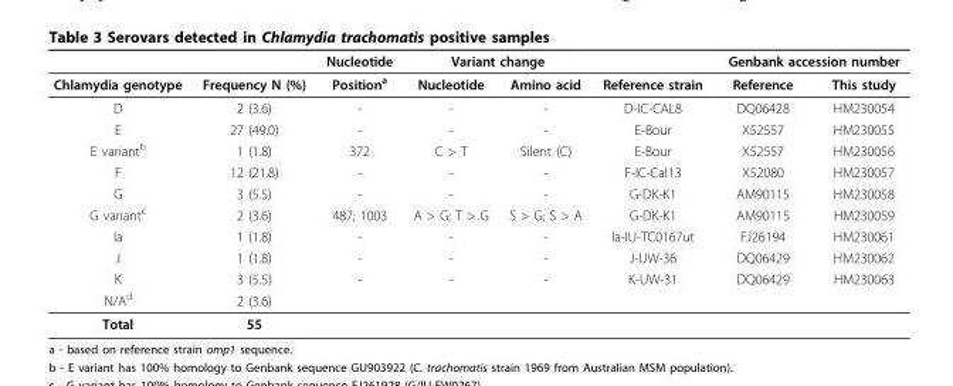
<table><thead><tr><td rowspan="2">Chlamydia genotype</td><td rowspan="2">Frequency N (%)</td><td rowspan="2">Nucleotide Positiona</td><td colspan="2">Variant change</td><td rowspan="2">Reference strain</td><td colspan="2">Genbank accession number</td></tr><tr><td>Nucleotide</td><td>Amino acid</td><td>Reference</td><td>This study</td></tr></thead><tbody><tr><td>D</td><td>2 (3.6)</td><td>-</td><td>-</td><td>-</td><td>D-IC-CAL8</td><td>DQ06428</td><td>HM230054</td></tr><tr><td>E</td><td>27 (49.0)</td><td>-</td><td>-</td><td>-</td><td>E-Bour</td><td>X52557</td><td>HM230055</td></tr><tr><td>E variant<sup>b</sup></td><td>1 (1.8)</td><td>372</td><td>C &gt; T</td><td>Silent (C)</td><td>E-Bour</td><td>X52557</td><td>HM230056</td></tr><tr><td>F</td><td>12 (21.8)</td><td>-</td><td>-</td><td>-</td><td>F-IC-Cal13</td><td>X52080</td><td>HM230057</td></tr><tr><td>G</td><td>3 (5.5)</td><td>-</td><td>-</td><td>-</td><td>G-DK-K1</td><td>AM90115</td><td>HM230058</td></tr><tr><td>G variant<sup>c</sup></td><td>2 (3.6)</td><td>487; 1003</td><td>A &gt; G; T &gt; G</td><td>S &gt; G; S &gt; A</td><td>G-DK-K1</td><td>AM90115</td><td>HM230059</td></tr><tr><td>Ia</td><td>1 (1.8)</td><td>-</td><td>-</td><td>-</td><td>Ia-IU-TC0167ut</td><td>FJ26194</td><td>HM230061</td></tr><tr><td>J</td><td>1 (1.8)</td><td>-</td><td>-</td><td>-</td><td>J-UW-36</td><td>DQ06429</td><td>HM230062</td></tr><tr><td>K</td><td>3 (5.5)</td><td>-</td><td>-</td><td>-</td><td>K-UW-31</td><td>DQ06429</td><td>HM230063</td></tr><tr><td>N/A<sup>d</sup></td><td>2 (3.6)</td><td></td><td></td><td></td><td></td><td></td><td></td></tr><tr><td>Total</td><td>55</td><td></td><td></td><td></td><td></td><td></td><td></td></tr></tbody></table>